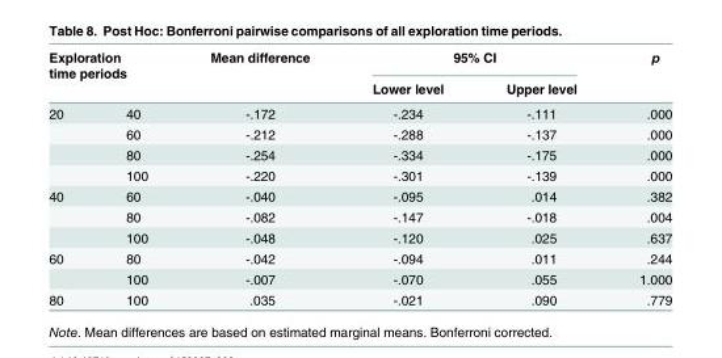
<table><thead><tr><td colspan="2">Exploration time periods</td><td rowspan="2">Mean difference</td><td colspan="2">95% CI</td><td rowspan="2">p</td></tr><tr><td></td><td></td><td>Lower level</td><td>Upper level</td></tr></thead><tbody><tr><td rowspan="4">20</td><td>40</td><td>-.172</td><td>-.234</td><td>-.111</td><td>.000</td></tr><tr><td>60</td><td>-.212</td><td>-.288</td><td>-.137</td><td>.000</td></tr><tr><td>80</td><td>-.254</td><td>-.334</td><td>-.175</td><td>.000</td></tr><tr><td>100</td><td>-.220</td><td>-.301</td><td>-.139</td><td>.000</td></tr><tr><td rowspan="3">40</td><td>60</td><td>-.040</td><td>-.095</td><td>.014</td><td>.382</td></tr><tr><td>80</td><td>-.082</td><td>-.147</td><td>-.018</td><td>.004</td></tr><tr><td>100</td><td>-.048</td><td>-.120</td><td>.025</td><td>.637</td></tr><tr><td rowspan="2">60</td><td>80</td><td>-.042</td><td>-.094</td><td>.011</td><td>.244</td></tr><tr><td>100</td><td>-.007</td><td>-.070</td><td>.055</td><td>1.000</td></tr><tr><td>80</td><td>100</td><td>.035</td><td>-.021</td><td>.090</td><td>.779</td></tr></tbody></table>